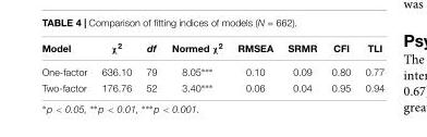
<table><thead><tr><td>Model</td><td>χ<sup>2</sup></td><td>df</td><td>Normed χ<sup>2</sup></td><td>RMSEA</td><td>SRMR</td><td>CFI</td><td>TLI</td></tr></thead><tbody><tr><td>One-factor</td><td>636.10</td><td>79</td><td>8.05∗∗∗</td><td>0.10</td><td>0.09</td><td>0.80</td><td>0.77</td></tr><tr><td>Two-factor</td><td>176.76</td><td>52</td><td>3.40∗∗∗</td><td>0.06</td><td>0.04</td><td>0.95</td><td>0.94</td></tr></tbody></table>